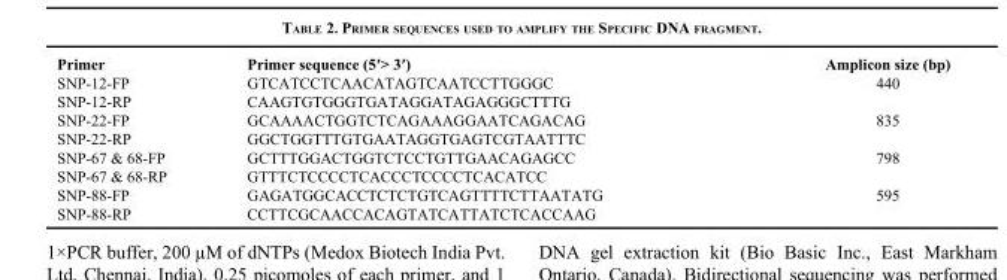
<table><thead><tr><td>Primer</td><td>Primer sequence (5′&gt; 3′)</td><td>Amplicon size (bp)</td></tr></thead><tbody><tr><td>SNP-12-FP</td><td>GTCATCCTCAACATAGTCAATCCTTGGGC</td><td>440</td></tr><tr><td>SNP-12-RP</td><td>CAAGTGTGGGTGATAGGATAGAGGGCTTTG</td><td></td></tr><tr><td>SNP-22-FP</td><td>GCAAAACTGGTCTCAGAAAGGAATCAGACAG</td><td>835</td></tr><tr><td>SNP-22-RP</td><td>GGCTGGTTTGTGAATAGGTGAGTCGTAATTTC</td><td></td></tr><tr><td>SNP-67 &amp; 68-FP</td><td>GCTTTGGACTGGTCTCCTGTTGAACAGAGCC</td><td>798</td></tr><tr><td>SNP-67 &amp; 68-RP</td><td>GTTTCTCCCCTCACCCTCCCCTCACATCC</td><td></td></tr><tr><td>SNP-88-FP</td><td>GAGATGGCACCTCTCTGTCAGTTTTCTTAATATG</td><td>595</td></tr><tr><td>SNP-88-RP</td><td>CCTTCGCAACCACAGTATCATTATCTCACCAAG</td><td></td></tr></tbody></table>